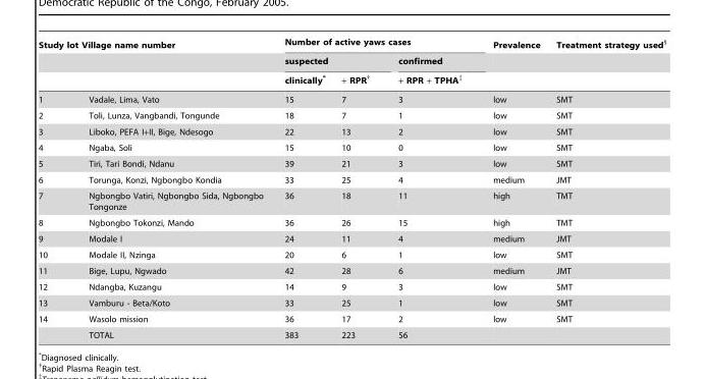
<table><thead><tr><td colspan="2">Study lot Village name number</td><td colspan="3">Number of active yaws cases</td><td rowspan="3">Prevalence</td><td rowspan="3">Treatment strategy used§</td></tr><tr><td rowspan="2"></td><td rowspan="2"></td><td colspan="2">suspected</td><td rowspan="2">confirmed + RPR + TPHA‡</td></tr><tr><td>clinically*</td><td>+ RPR†</td></tr></thead><tbody><tr><td>1</td><td>Vadale, Lima, Vato</td><td>15</td><td>7</td><td>3</td><td>low</td><td>SMT</td></tr><tr><td>2</td><td>Toli, Lunza, Vangbandi, Tongunde</td><td>18</td><td>7</td><td>1</td><td>low</td><td>SMT</td></tr><tr><td>3</td><td>Liboko, PEFA I+II, Bige, Ndesogo</td><td>22</td><td>13</td><td>2</td><td>low</td><td>SMT</td></tr><tr><td>4</td><td>Ngaba, Soli</td><td>15</td><td>10</td><td>0</td><td>low</td><td>SMT</td></tr><tr><td>5</td><td>Tiri, Tari Bondi, Ndanu</td><td>39</td><td>21</td><td>3</td><td>low</td><td>SMT</td></tr><tr><td>6</td><td>Torunga, Konzi, Ngbongbo Kondia</td><td>33</td><td>25</td><td>4</td><td>medium</td><td>JMT</td></tr><tr><td>7</td><td>Ngbongbo Vatiri, Ngbongbo Sida, Ngbongbo Tongonze</td><td>36</td><td>18</td><td>11</td><td>high</td><td>TMT</td></tr><tr><td>8</td><td>Ngbongbo Tokonzi, Mando</td><td>36</td><td>26</td><td>15</td><td>high</td><td>TMT</td></tr><tr><td>9</td><td>Modale I</td><td>24</td><td>11</td><td>4</td><td>medium</td><td>JMT</td></tr><tr><td>10</td><td>Modale II, Nzinga</td><td>20</td><td>6</td><td>1</td><td>low</td><td>SMT</td></tr><tr><td>11</td><td>Bige, Lupu, Ngwado</td><td>42</td><td>28</td><td>6</td><td>medium</td><td>JMT</td></tr><tr><td>12</td><td>Ndangba, Kuzangu</td><td>14</td><td>9</td><td>3</td><td>low</td><td>SMT</td></tr><tr><td>13</td><td>Vamburu - Beta/Koto</td><td>33</td><td>25</td><td>1</td><td>low</td><td>SMT</td></tr><tr><td rowspan="2">14</td><td>Wasolo mission</td><td>36</td><td>17</td><td>2</td><td>low</td><td>SMT</td></tr><tr><td>TOTAL</td><td>383</td><td>223</td><td>56</td><td></td><td></td></tr></tbody></table>